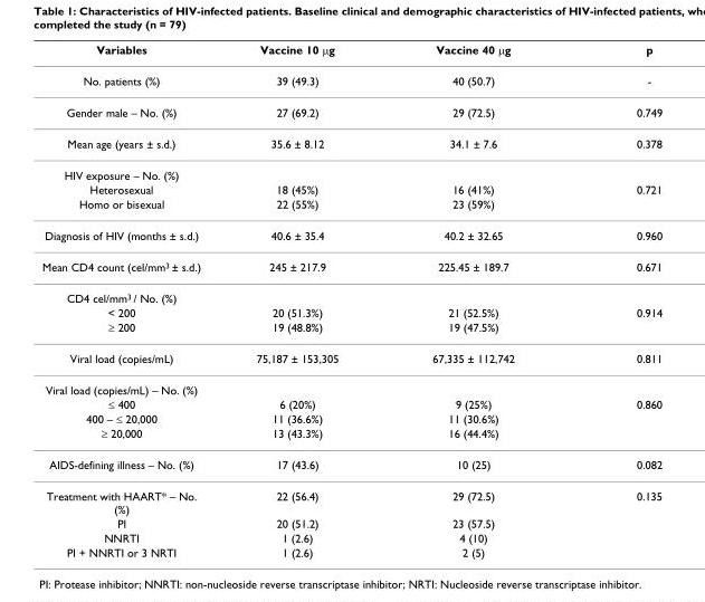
<table><thead><tr><td>Variables</td><td>Vaccine 10 µg</td><td>Vaccine 40 µg</td><td>p</td></tr></thead><tbody><tr><td>No. patients (%)</td><td>39 (49.3)</td><td>40 (50.7)</td><td>-</td></tr><tr><td>Gender male – No. (%)</td><td>27 (69.2)</td><td>29 (72.5)</td><td>0.749</td></tr><tr><td>Mean age (years ± s.d.)</td><td>35.6 ± 8.12</td><td>34.1 ± 7.6</td><td>0.378</td></tr><tr><td colspan="4">HIV exposure – No. (%)</td></tr><tr><td>Heterosexual</td><td>18 (45%)</td><td>16 (41%)</td><td>0.721</td></tr><tr><td>Homo or bisexual</td><td>22 (55%)</td><td>23 (59%)</td><td></td></tr><tr><td>Diagnosis of HIV (months ± s.d.)</td><td>40.6 ± 35.4</td><td>40.2 ± 32.65</td><td>0.960</td></tr><tr><td>Mean CD4 count (cel/mm<sup>3</sup> ± s.d.)</td><td>245 ± 217.9</td><td>225.45 ± 189.7</td><td>0.671</td></tr><tr><td colspan="4">CD4 cel/mm<sup>3</sup> / No. (%)</td></tr><tr><td>&lt; 200</td><td>20 (51.3%)</td><td>21 (52.5%)</td><td>0.914</td></tr><tr><td>≥ 200</td><td>19 (48.8%)</td><td>19 (47.5%)</td><td></td></tr><tr><td>Viral load (copies/mL)</td><td>75,187 ± 153,305</td><td>67,335 ± 112,742</td><td>0.811</td></tr><tr><td colspan="4">Viral load (copies/mL) – No. (%)</td></tr><tr><td>≤ 400</td><td>6 (20%)</td><td>9 (25%)</td><td>0.860</td></tr><tr><td>400 – ≤ 20,000</td><td>11 (36.6%)</td><td>11 (30.6%)</td><td></td></tr><tr><td>≥ 20,000</td><td>13 (43.3%)</td><td>16 (44.4%)</td><td></td></tr><tr><td>AIDS-defining illness – No. (%)</td><td>17 (43.6)</td><td>10 (25)</td><td>0.082</td></tr><tr><td>Treatment with HAART* – No. (%)</td><td>22 (56.4)</td><td>29 (72.5)</td><td>0.135</td></tr><tr><td>PI</td><td>20 (51.2)</td><td>23 (57.5)</td><td></td></tr><tr><td>NNRTI</td><td>1 (2.6)</td><td>4 (10)</td><td></td></tr><tr><td>PI + NNRTI or 3 NRTI</td><td>1 (2.6)</td><td>2 (5)</td><td></td></tr></tbody></table>